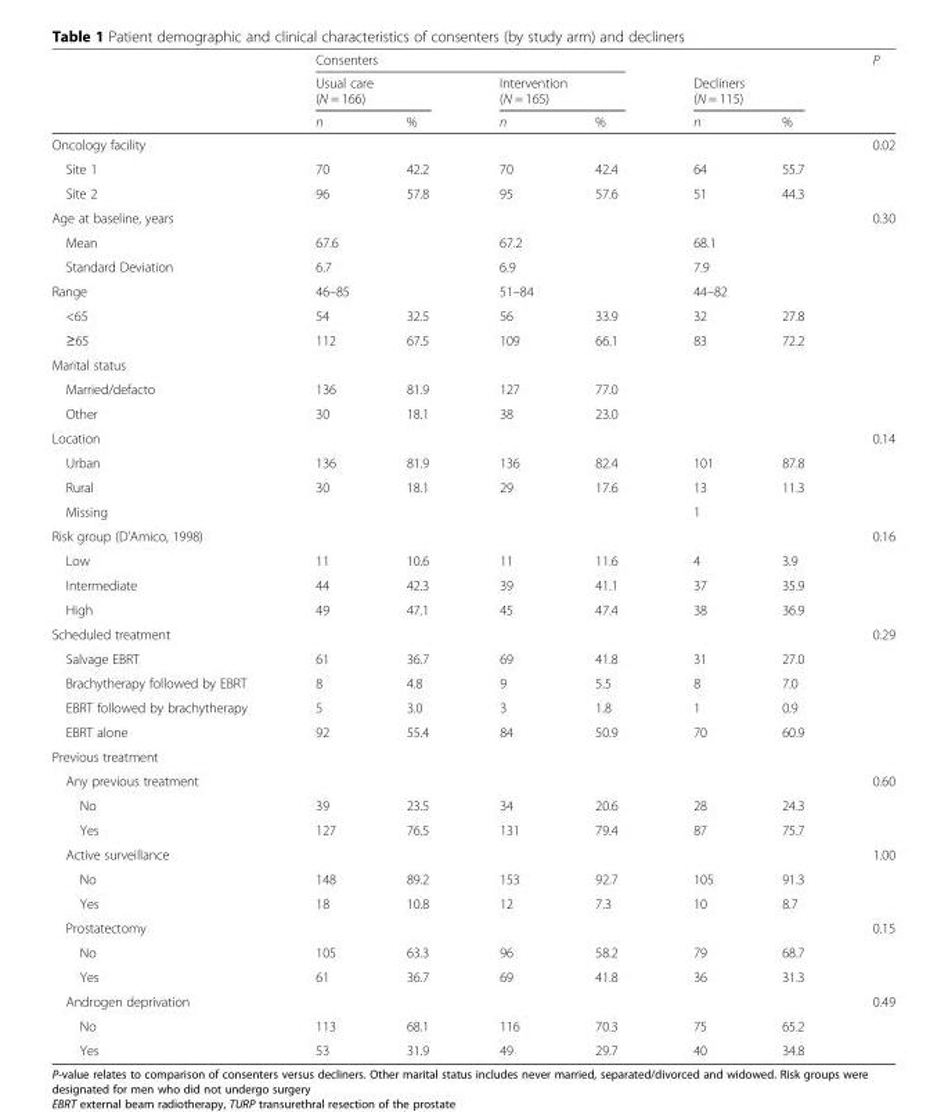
<table><thead><tr><td rowspan="4"></td><td colspan="4">Consenters</td><td></td><td></td><td rowspan="4">P</td></tr><tr><td rowspan="2" colspan="2">Usual care (N = 166)</td><td rowspan="2" colspan="2">Intervention (N = 165)</td><td rowspan="2" colspan="2">Decliners (N = 115)</td></tr><tr></tr><tr><td>n</td><td>%</td><td>n</td><td>%</td><td>n</td><td>%</td></tr></thead><tbody><tr><td>Oncology facility</td><td></td><td></td><td></td><td></td><td></td><td></td><td>0.02</td></tr><tr><td>Site 1</td><td>70</td><td>42.2</td><td>70</td><td>42.4</td><td>64</td><td>55.7</td><td></td></tr><tr><td>Site 2</td><td>96</td><td>57.8</td><td>95</td><td>57.6</td><td>51</td><td>44.3</td><td></td></tr><tr><td>Age at baseline, years</td><td></td><td></td><td></td><td></td><td></td><td></td><td>0.30</td></tr><tr><td>Mean</td><td colspan="2">67.6</td><td colspan="2">67.2</td><td colspan="2">68.1</td><td></td></tr><tr><td>Standard Deviation</td><td colspan="2">6.7</td><td colspan="2">6.9</td><td colspan="2">7.9</td><td></td></tr><tr><td>Range</td><td colspan="2">46–85</td><td colspan="2">51–84</td><td colspan="2">44–82</td><td></td></tr><tr><td>&lt;65</td><td>54</td><td>32.5</td><td>56</td><td>33.9</td><td>32</td><td>27.8</td><td></td></tr><tr><td>≥65</td><td>112</td><td>67.5</td><td>109</td><td>66.1</td><td>83</td><td>72.2</td><td></td></tr><tr><td colspan="8">Marital status</td></tr><tr><td>Married/defacto</td><td>136</td><td>81.9</td><td>127</td><td>77.0</td><td></td><td></td><td></td></tr><tr><td>Other</td><td>30</td><td>18.1</td><td>38</td><td>23.0</td><td></td><td></td><td></td></tr><tr><td>Location</td><td></td><td></td><td></td><td></td><td></td><td></td><td>0.14</td></tr><tr><td>Urban</td><td>136</td><td>81.9</td><td>136</td><td>82.4</td><td>101</td><td>87.8</td><td></td></tr><tr><td>Rural</td><td>30</td><td>18.1</td><td>29</td><td>17.6</td><td>13</td><td>11.3</td><td></td></tr><tr><td>Missing</td><td></td><td></td><td></td><td></td><td>1</td><td></td><td></td></tr><tr><td>Risk group (D’Amico, 1998)</td><td></td><td></td><td></td><td></td><td></td><td></td><td>0.16</td></tr><tr><td>Low</td><td>11</td><td>10.6</td><td>11</td><td>11.6</td><td>4</td><td>3.9</td><td></td></tr><tr><td>Intermediate</td><td>44</td><td>42.3</td><td>39</td><td>41.1</td><td>37</td><td>35.9</td><td></td></tr><tr><td>High</td><td>49</td><td>47.1</td><td>45</td><td>47.4</td><td>38</td><td>36.9</td><td></td></tr><tr><td>Scheduled treatment</td><td></td><td></td><td></td><td></td><td></td><td></td><td>0.29</td></tr><tr><td>Salvage EBRT</td><td>61</td><td>36.7</td><td>69</td><td>41.8</td><td>31</td><td>27.0</td><td></td></tr><tr><td>Brachytherapy followed by EBRT</td><td>8</td><td>4.8</td><td>9</td><td>5.5</td><td>8</td><td>7.0</td><td></td></tr><tr><td>EBRT followed by brachytherapy</td><td>5</td><td>3.0</td><td>3</td><td>1.8</td><td>1</td><td>0.9</td><td></td></tr><tr><td>EBRT alone</td><td>92</td><td>55.4</td><td>84</td><td>50.9</td><td>70</td><td>60.9</td><td></td></tr><tr><td colspan="8">Previous treatment</td></tr><tr><td>Any previous treatment</td><td></td><td></td><td></td><td></td><td></td><td></td><td>0.60</td></tr><tr><td>No</td><td>39</td><td>23.5</td><td>34</td><td>20.6</td><td>28</td><td>24.3</td><td></td></tr><tr><td>Yes</td><td>127</td><td>76.5</td><td>131</td><td>79.4</td><td>87</td><td>75.7</td><td></td></tr><tr><td>Active surveillance</td><td></td><td></td><td></td><td></td><td></td><td></td><td>1.00</td></tr><tr><td>No</td><td>148</td><td>89.2</td><td>153</td><td>92.7</td><td>105</td><td>91.3</td><td></td></tr><tr><td>Yes</td><td>18</td><td>10.8</td><td>12</td><td>7.3</td><td>10</td><td>8.7</td><td></td></tr><tr><td>Prostatectomy</td><td></td><td></td><td></td><td></td><td></td><td></td><td>0.15</td></tr><tr><td>No</td><td>105</td><td>63.3</td><td>96</td><td>58.2</td><td>79</td><td>68.7</td><td></td></tr><tr><td>Yes</td><td>61</td><td>36.7</td><td>69</td><td>41.8</td><td>36</td><td>31.3</td><td></td></tr><tr><td>Androgen deprivation</td><td></td><td></td><td></td><td></td><td></td><td></td><td>0.49</td></tr><tr><td>No</td><td>113</td><td>68.1</td><td>116</td><td>70.3</td><td>75</td><td>65.2</td><td></td></tr><tr><td>Yes</td><td>53</td><td>31.9</td><td>49</td><td>29.7</td><td>40</td><td>34.8</td><td></td></tr></tbody></table>